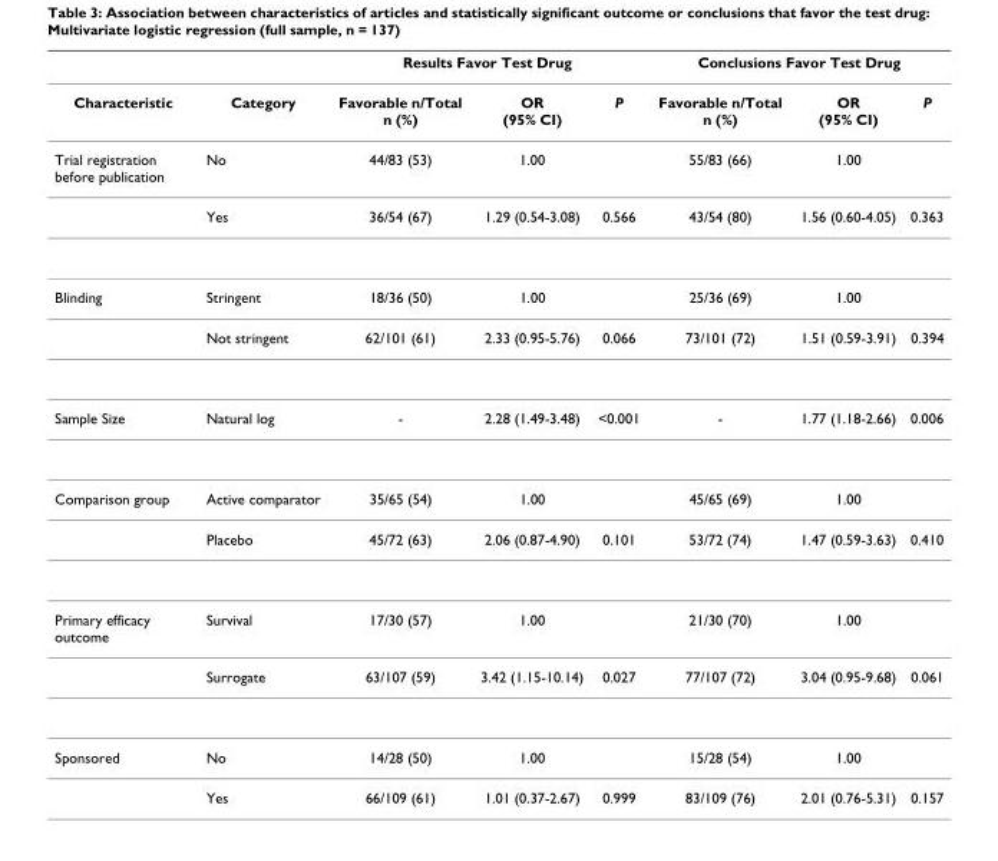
<table><thead><tr><td rowspan="2">Characteristic</td><td rowspan="2">Category</td><td colspan="3">Results Favor Test Drug</td><td colspan="3">Conclusions Favor Test Drug</td></tr><tr><td>Favorable n/Total n (%)</td><td>OR (95% CI)</td><td>P</td><td>Favorable n/Total n (%)</td><td>OR (95% CI)</td><td>P</td></tr></thead><tbody><tr><td rowspan="2">Trial registration before publication</td><td>No</td><td>44/83 (53)</td><td>1.00</td><td></td><td>55/83 (66)</td><td>1.00</td><td></td></tr><tr><td>Yes</td><td>36/54 (67)</td><td>1.29 (0.54-3.08)</td><td>0.566</td><td>43/54 (80)</td><td>1.56 (0.60-4.05)</td><td>0.363</td></tr><tr><td rowspan="2">Blinding</td><td>Stringent</td><td>18/36 (50)</td><td>1.00</td><td></td><td>25/36 (69)</td><td>1.00</td><td></td></tr><tr><td>Not stringent</td><td>62/101 (61)</td><td>2.33 (0.95-5.76)</td><td>0.066</td><td>73/101 (72)</td><td>1.51 (0.59-3.91)</td><td>0.394</td></tr><tr><td>Sample Size</td><td>Natural log</td><td>-</td><td>2.28 (1.49-3.48)</td><td>&lt;0.001</td><td>-</td><td>1.77 (1.18-2.66)</td><td>0.006</td></tr><tr><td rowspan="2">Comparison group</td><td>Active comparator</td><td>35/65 (54)</td><td>1.00</td><td></td><td>45/65 (69)</td><td>1.00</td><td></td></tr><tr><td>Placebo</td><td>45/72 (63)</td><td>2.06 (0.87-4.90)</td><td>0.101</td><td>53/72 (74)</td><td>1.47 (0.59-3.63)</td><td>0.410</td></tr><tr><td rowspan="2">Primary efficacy outcome</td><td>Survival</td><td>17/30 (57)</td><td>1.00</td><td></td><td>21/30 (70)</td><td>1.00</td><td></td></tr><tr><td>Surrogate</td><td>63/107 (59)</td><td>3.42 (1.15-10.14)</td><td>0.027</td><td>77/107 (72)</td><td>3.04 (0.95-9.68)</td><td>0.061</td></tr><tr><td rowspan="2">Sponsored</td><td>No</td><td>14/28 (50)</td><td>1.00</td><td></td><td>15/28 (54)</td><td>1.00</td><td></td></tr><tr><td>Yes</td><td>66/109 (61)</td><td>1.01 (0.37-2.67)</td><td>0.999</td><td>83/109 (76)</td><td>2.01 (0.76-5.31)</td><td>0.157</td></tr></tbody></table>